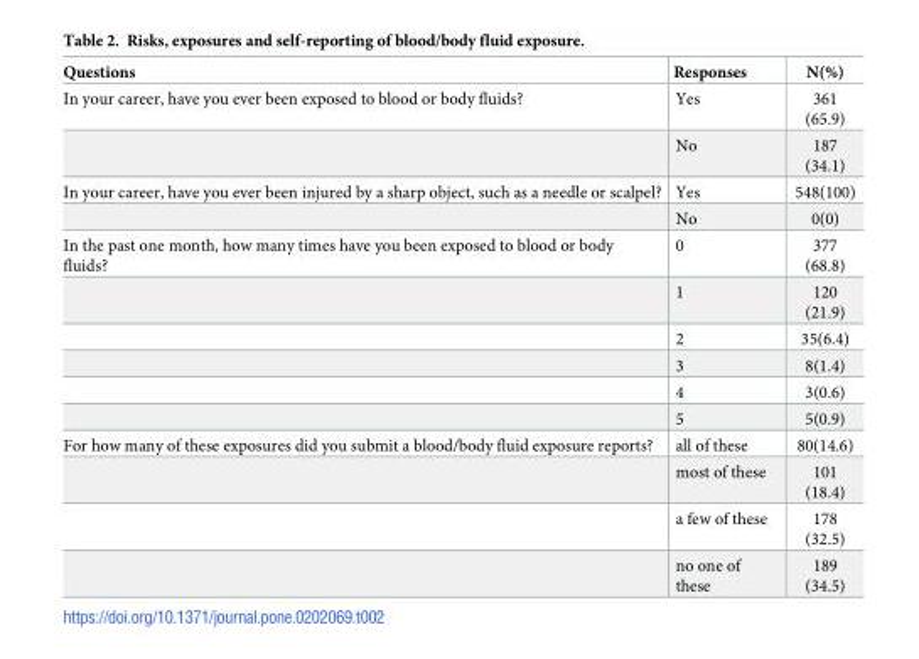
<table><thead><tr><td>Questions</td><td>Responses</td><td>N(%)</td></tr></thead><tbody><tr><td rowspan="2">In your career, have you ever been exposed to blood or body fluids?</td><td>Yes</td><td>361 (65.9)</td></tr><tr><td>No</td><td>187 (34.1)</td></tr><tr><td rowspan="2">In your career, have you ever been injured by a sharp object, such as a needle or scalpel?</td><td>Yes</td><td>548(100)</td></tr><tr><td>No</td><td>0(0)</td></tr><tr><td rowspan="6">In the past one month, how many times have you been exposed to blood or body fluids?</td><td>0</td><td>377 (68.8)</td></tr><tr><td>1</td><td>120 (21.9)</td></tr><tr><td>2</td><td>35(6.4)</td></tr><tr><td>3</td><td>8(1.4)</td></tr><tr><td>4</td><td>3(0.6)</td></tr><tr><td>5</td><td>5(0.9)</td></tr><tr><td rowspan="4">For how many of these exposures did you submit a blood/body fluid exposure reports?</td><td>all of these</td><td>80(14.6)</td></tr><tr><td>most of these</td><td>101 (18.4)</td></tr><tr><td>a few of these</td><td>178 (32.5)</td></tr><tr><td>no one of these</td><td>189 (34.5)</td></tr></tbody></table>